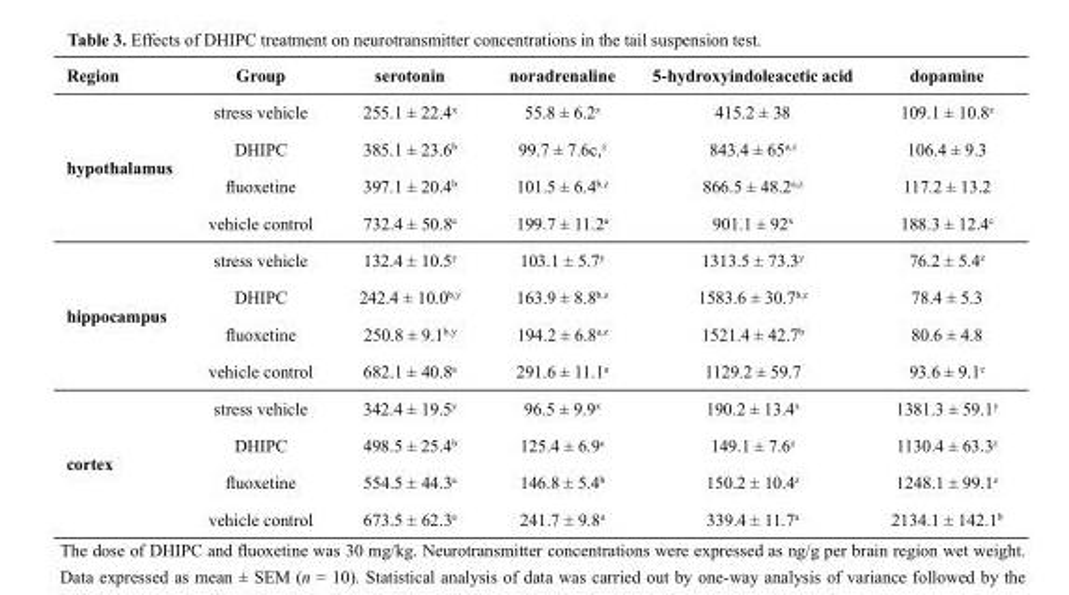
<table><thead><tr><td>Region</td><td>Group</td><td>serotonin</td><td>noradrenaline</td><td>5-hydroxyindoleacetic acid</td><td>dopamine</td></tr></thead><tbody><tr><td rowspan="4">hypothalamus</td><td>stress vehicle</td><td>255.1 ± 22.4<sup>x</sup></td><td>55.8 ± 6.2<sup>z</sup></td><td>415.2 ± 38</td><td>109.1 ± 10.8<sup>z</sup></td></tr><tr><td>DHIPC</td><td>385.1 ± 23.6<sup>b</sup></td><td>99.7 ± 7.6<sup>c</sup>,<sup>z</sup></td><td>843.4 ± 65<sup>a</sup>,<sup>z</sup></td><td>106.4 ± 9.3</td></tr><tr><td>fluoxetine</td><td>397.1 ± 20.4<sup>b</sup></td><td>101.5 ± 6.4<sup>b</sup>,<sup>z</sup></td><td>866.5 ± 48.2<sup>a</sup>,<sup>z</sup></td><td>117.2 ± 13.2</td></tr><tr><td>vehicle control</td><td>732.4 ± 50.8<sup>a</sup></td><td>199.7 ± 11.2<sup>a</sup></td><td>901.1 ± 92x</td><td>188.3 ± 12.4<sup>c</sup></td></tr><tr><td rowspan="4">hippocampus</td><td>stress vehicle</td><td>132.4 ± 10.5<sup>y</sup></td><td>103.1 ± 5.7<sup>y</sup></td><td>1313.5 ± 73.3<sup>y</sup></td><td>76.2 ± 5.4<sup>z</sup></td></tr><tr><td>DHIPC</td><td>242.4 ± 10.0<sup>b</sup>,<sup>y</sup></td><td>163.9 ± 8.8<sup>b</sup>,<sup>z</sup></td><td>1583.6 ± 30.7<sup>b</sup>,<sup>z</sup></td><td>78.4 ± 5.3</td></tr><tr><td>fluoxetine</td><td>250.8 ± 9.1<sup>b</sup>,<sup>y</sup></td><td>194.2 ± 6.8<sup>a</sup>,<sup>z</sup></td><td>1521.4 ± 42.7<sup>b</sup></td><td>80.6 ± 4.8</td></tr><tr><td>vehicle control</td><td>682.1 ± 40.8<sup>a</sup></td><td>291.6 ± 11.1<sup>a</sup></td><td>1129.2 ± 59.7</td><td>93.6 ± 9.1<sup>c</sup></td></tr><tr><td rowspan="4">cortex</td><td>stress vehicle</td><td>342.4 ± 19.5<sup>y</sup></td><td>96.5 ± 9.9<sup>x</sup></td><td>190.2 ± 13.4<sup>x</sup></td><td>1381.3 ± 59.1<sup>y</sup></td></tr><tr><td>DHIPC</td><td>498.5 ± 25.4<sup>b</sup></td><td>125.4 ± 6.9<sup>c</sup></td><td>149.1 ± 7.6<sup>z</sup></td><td>1130.4 ± 63.3<sup>z</sup></td></tr><tr><td>fluoxetine</td><td>554.5 ± 44.3<sup>a</sup></td><td>146.8 ± 5.4<sup>b</sup></td><td>150.2 ± 10.4<sup>z</sup></td><td>1248.1 ± 99.1<sup>z</sup></td></tr><tr><td>vehicle control</td><td>673.5 ± 62.3<sup>a</sup></td><td>241.7 ± 9.8<sup>a</sup></td><td>339.4 ± 11.7<sup>a</sup></td><td>2134.1 ± 142.1<sup>b</sup></td></tr></tbody></table>